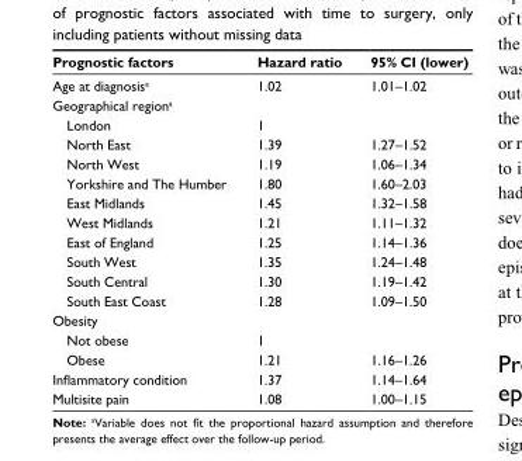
<table><thead><tr><td>Prognostic factors</td><td>Hazard ratio</td><td>95% CI (lower)</td></tr></thead><tbody><tr><td>Age at diagnosis<sup>a</sup></td><td>1.02</td><td>1.01–1.02</td></tr><tr><td colspan="3">Geographical region<sup>a</sup></td></tr><tr><td>London</td><td>1</td><td></td></tr><tr><td>North East</td><td>1.39</td><td>1.27–1.52</td></tr><tr><td>North West</td><td>1.19</td><td>1.06–1.34</td></tr><tr><td>Yorkshire and The Humber</td><td>1.80</td><td>1.60–2.03</td></tr><tr><td>East Midlands</td><td>1.45</td><td>1.32–1.58</td></tr><tr><td>West Midlands</td><td>1.21</td><td>1.11–1.32</td></tr><tr><td>East of England</td><td>1.25</td><td>1.14–1.36</td></tr><tr><td>South West</td><td>1.35</td><td>1.24–1.48</td></tr><tr><td>South Central</td><td>1.30</td><td>1.19–1.42</td></tr><tr><td>South East Coast</td><td>1.28</td><td>1.09–1.50</td></tr><tr><td colspan="3">Obesity</td></tr><tr><td>Not obese</td><td>1</td><td></td></tr><tr><td>Obese</td><td>1.21</td><td>1.16–1.26</td></tr><tr><td>Inflammatory condition</td><td>1.37</td><td>1.14–1.64</td></tr><tr><td>Multisite pain</td><td>1.08</td><td>1.00–1.15</td></tr></tbody></table>